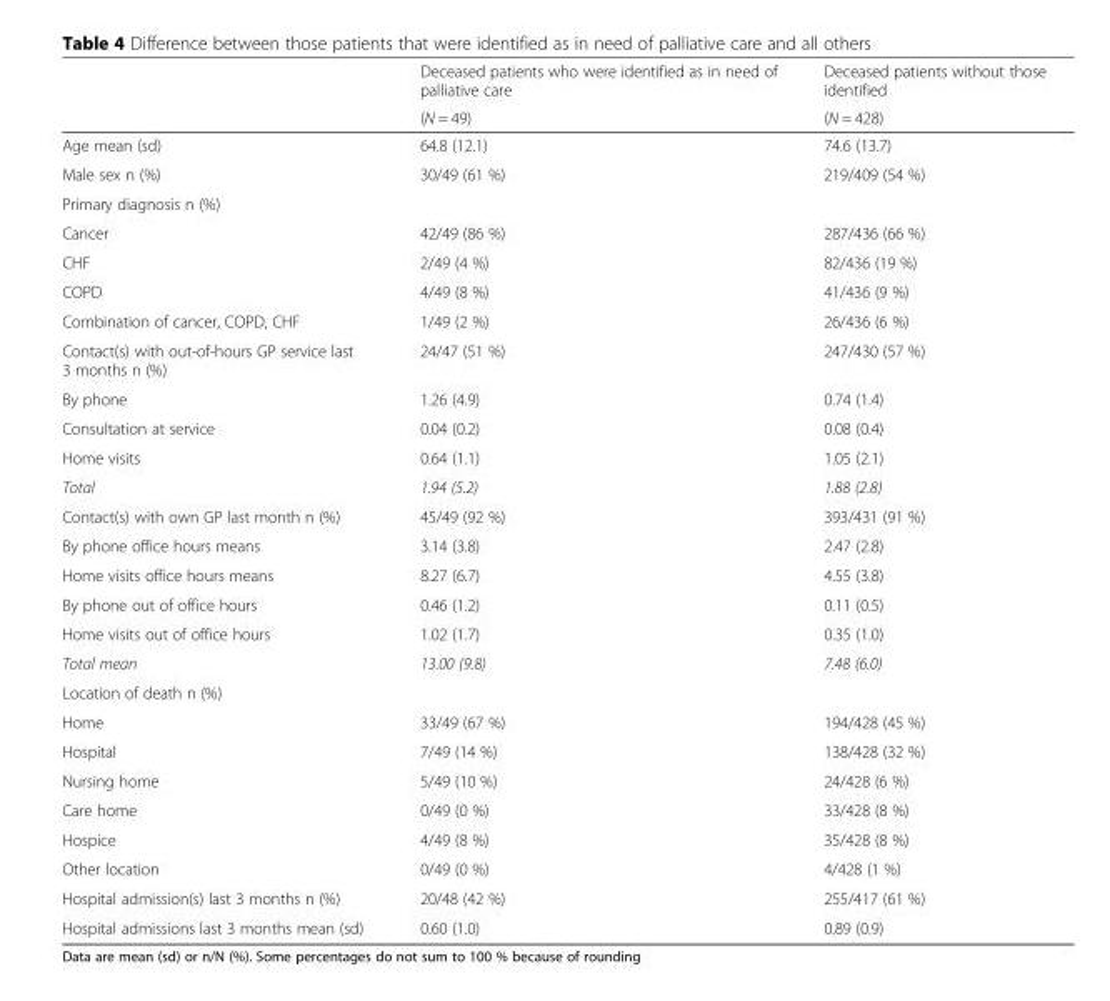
<table><thead><tr><td rowspan="2"></td><td rowspan="2">Deceased patients who were identified as in need of palliative care (N = 49)</td><td rowspan="2">Deceased patients without those identified (N = 428)</td></tr><tr></tr></thead><tbody><tr><td>Age mean (sd)</td><td>64.8 (12.1)</td><td>74.6 (13.7)</td></tr><tr><td>Male sex n (%)</td><td>30/49 (61 %)</td><td>219/409 (54 %)</td></tr><tr><td colspan="3">Primary diagnosis n (%)</td></tr><tr><td>Cancer</td><td>42/49 (86 %)</td><td>287/436 (66 %)</td></tr><tr><td>CHF</td><td>2/49 (4 %)</td><td>82/436 (19 %)</td></tr><tr><td>COPD</td><td>4/49 (8 %)</td><td>41/436 (9 %)</td></tr><tr><td>Combination of cancer, COPD, CHF</td><td>1/49 (2 %)</td><td>26/436 (6 %)</td></tr><tr><td>Contact(s) with out-of-hours GP service last 3 months n (%)</td><td>24/47 (51 %)</td><td>247/430 (57 %)</td></tr><tr><td>By phone</td><td>1.26 (4.9)</td><td>0.74 (1.4)</td></tr><tr><td>Consultation at service</td><td>0.04 (0.2)</td><td>0.08 (0.4)</td></tr><tr><td>Home visits</td><td>0.64 (1.1)</td><td>1.05 (2.1)</td></tr><tr><td>Total</td><td>1.94 (5.2)</td><td>1.88 (2.8)</td></tr><tr><td>Contact(s) with own GP last month n (%)</td><td>45/49 (92 %)</td><td>393/431 (91 %)</td></tr><tr><td>By phone office hours means</td><td>3.14 (3.8)</td><td>2.47 (2.8)</td></tr><tr><td>Home visits office hours means</td><td>8.27 (6.7)</td><td>4.55 (3.8)</td></tr><tr><td>By phone out of office hours</td><td>0.46 (1.2)</td><td>0.11 (0.5)</td></tr><tr><td>Home visits out of office hours</td><td>1.02 (1.7)</td><td>0.35 (1.0)</td></tr><tr><td>Total mean</td><td>13.00 (9.8)</td><td>7.48 (6.0)</td></tr><tr><td colspan="3">Location of death n (%)</td></tr><tr><td>Home</td><td>33/49 (67 %)</td><td>194/428 (45 %)</td></tr><tr><td>Hospital</td><td>7/49 (14 %)</td><td>138/428 (32 %)</td></tr><tr><td>Nursing home</td><td>5/49 (10 %)</td><td>24/428 (6 %)</td></tr><tr><td>Care home</td><td>0/49 (0 %)</td><td>33/428 (8 %)</td></tr><tr><td>Hospice</td><td>4/49 (8 %)</td><td>35/428 (8 %)</td></tr><tr><td>Other location</td><td>0/49 (0 %)</td><td>4/428 (1 %)</td></tr><tr><td>Hospital admission(s) last 3 months n (%)</td><td>20/48 (42 %)</td><td>255/417 (61 %)</td></tr><tr><td>Hospital admissions last 3 months mean (sd)</td><td>0.60 (1.0)</td><td>0.89 (0.9)</td></tr></tbody></table>